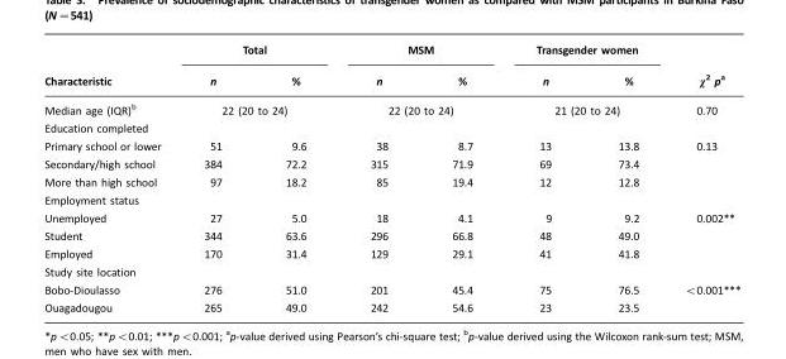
<table><thead><tr><td rowspan="2">Characteristic</td><td colspan="2">Total</td><td colspan="2">MSM</td><td colspan="2">Transgender women</td><td rowspan="2">χ<sup>2</sup> p<sup>a</sup></td></tr><tr><td>n</td><td>%</td><td>n</td><td>%</td><td>n</td><td>%</td></tr></thead><tbody><tr><td>Median age (IQR)<sup>b</sup></td><td colspan="2">22 (20 to 24)</td><td colspan="2">22 (20 to 24)</td><td colspan="2">21 (20 to 24)</td><td>0.70</td></tr><tr><td colspan="8">Education completed</td></tr><tr><td>Primary school or lower</td><td>51</td><td>9.6</td><td>38</td><td>8.7</td><td>13</td><td>13.8</td><td>0.13</td></tr><tr><td>Secondary/high school</td><td>384</td><td>72.2</td><td>315</td><td>71.9</td><td>69</td><td>73.4</td><td></td></tr><tr><td>More than high school</td><td>97</td><td>18.2</td><td>85</td><td>19.4</td><td>12</td><td>12.8</td><td></td></tr><tr><td colspan="8">Employment status</td></tr><tr><td>Unemployed</td><td>27</td><td>5.0</td><td>18</td><td>4.1</td><td>9</td><td>9.2</td><td>0.002**</td></tr><tr><td>Student</td><td>344</td><td>63.6</td><td>296</td><td>66.8</td><td>48</td><td>49.0</td><td></td></tr><tr><td>Employed</td><td>170</td><td>31.4</td><td>129</td><td>29.1</td><td>41</td><td>41.8</td><td></td></tr><tr><td colspan="8">Study site location</td></tr><tr><td>Bobo-Dioulasso</td><td>276</td><td>51.0</td><td>201</td><td>45.4</td><td>75</td><td>76.5</td><td>&lt;0.001***</td></tr><tr><td>Ouagadougou</td><td>265</td><td>49.0</td><td>242</td><td>54.6</td><td>23</td><td>23.5</td><td></td></tr></tbody></table>